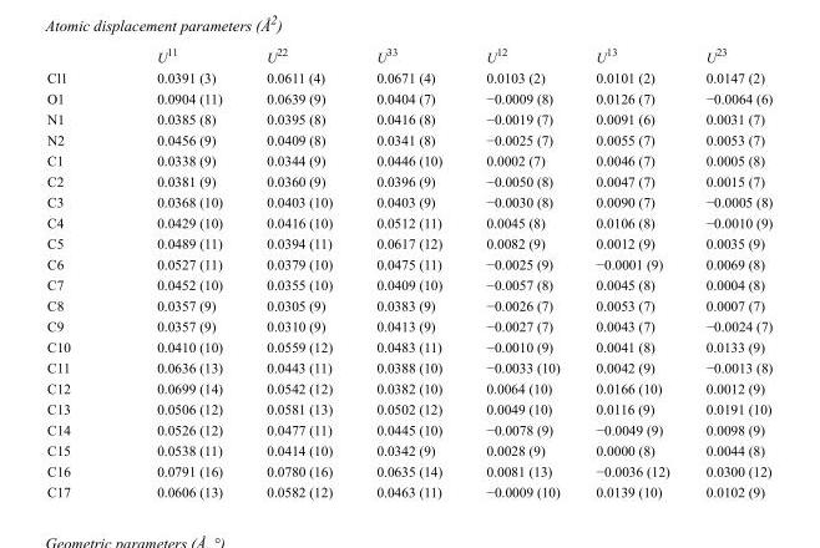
<table><thead><tr><td></td><td>U<sup>11</sup></td><td>U<sup>22</sup></td><td>U<sup>33</sup></td><td>U<sup>12</sup></td><td>U<sup>13</sup></td><td>U<sup>23</sup></td></tr></thead><tbody><tr><td>Cl1</td><td>0.0391 (3)</td><td>0.0611 (4)</td><td>0.0671 (4)</td><td>0.0103 (2)</td><td>0.0101 (2)</td><td>0.0147 (2)</td></tr><tr><td>O1</td><td>0.0904 (11)</td><td>0.0639 (9)</td><td>0.0404 (7)</td><td>−0.0009 (8)</td><td>0.0126 (7)</td><td>−0.0064 (6)</td></tr><tr><td>N1</td><td>0.0385 (8)</td><td>0.0395 (8)</td><td>0.0416 (8)</td><td>−0.0019 (7)</td><td>0.0091 (6)</td><td>0.0031 (7)</td></tr><tr><td>N2</td><td>0.0456 (9)</td><td>0.0409 (8)</td><td>0.0341 (8)</td><td>−0.0025 (7)</td><td>0.0055 (7)</td><td>0.0053 (7)</td></tr><tr><td>C1</td><td>0.0338 (9)</td><td>0.0344 (9)</td><td>0.0446 (10)</td><td>0.0002 (7)</td><td>0.0046 (7)</td><td>0.0005 (8)</td></tr><tr><td>C2</td><td>0.0381 (9)</td><td>0.0360 (9)</td><td>0.0396 (9)</td><td>−0.0050 (8)</td><td>0.0047 (7)</td><td>0.0015 (7)</td></tr><tr><td>C3</td><td>0.0368 (10)</td><td>0.0403 (10)</td><td>0.0403 (9)</td><td>−0.0030 (8)</td><td>0.0090 (7)</td><td>−0.0005 (8)</td></tr><tr><td>C4</td><td>0.0429 (10)</td><td>0.0416 (10)</td><td>0.0512 (11)</td><td>0.0045 (8)</td><td>0.0106 (8)</td><td>−0.0010 (9)</td></tr><tr><td>C5</td><td>0.0489 (11)</td><td>0.0394 (11)</td><td>0.0617 (12)</td><td>0.0082 (9)</td><td>0.0012 (9)</td><td>0.0035 (9)</td></tr><tr><td>C6</td><td>0.0527 (11)</td><td>0.0379 (10)</td><td>0.0475 (11)</td><td>−0.0025 (9)</td><td>−0.0001 (9)</td><td>0.0069 (8)</td></tr><tr><td>C7</td><td>0.0452 (10)</td><td>0.0355 (10)</td><td>0.0409 (10)</td><td>−0.0057 (8)</td><td>0.0045 (8)</td><td>0.0004 (8)</td></tr><tr><td>C8</td><td>0.0357 (9)</td><td>0.0305 (9)</td><td>0.0383 (9)</td><td>−0.0026 (7)</td><td>0.0053 (7)</td><td>0.0007 (7)</td></tr><tr><td>C9</td><td>0.0357 (9)</td><td>0.0310 (9)</td><td>0.0413 (9)</td><td>−0.0027 (7)</td><td>0.0043 (7)</td><td>−0.0024 (7)</td></tr><tr><td>C10</td><td>0.0410 (10)</td><td>0.0559 (12)</td><td>0.0483 (11)</td><td>−0.0010 (9)</td><td>0.0041 (8)</td><td>0.0133 (9)</td></tr><tr><td>C11</td><td>0.0636 (13)</td><td>0.0443 (11)</td><td>0.0388 (10)</td><td>−0.0033 (10)</td><td>0.0042 (9)</td><td>−0.0013 (8)</td></tr><tr><td>C12</td><td>0.0699 (14)</td><td>0.0542 (12)</td><td>0.0382 (10)</td><td>0.0064 (10)</td><td>0.0166 (10)</td><td>0.0012 (9)</td></tr><tr><td>C13</td><td>0.0506 (12)</td><td>0.0581 (13)</td><td>0.0502 (12)</td><td>0.0049 (10)</td><td>0.0116 (9)</td><td>0.0191 (10)</td></tr><tr><td>C14</td><td>0.0526 (12)</td><td>0.0477 (11)</td><td>0.0445 (10)</td><td>−0.0078 (9)</td><td>−0.0049 (9)</td><td>0.0098 (9)</td></tr><tr><td>C15</td><td>0.0538 (11)</td><td>0.0414 (10)</td><td>0.0342 (9)</td><td>0.0028 (9)</td><td>0.0000 (8)</td><td>0.0044 (8)</td></tr><tr><td>C16</td><td>0.0791 (16)</td><td>0.0780 (16)</td><td>0.0635 (14)</td><td>0.0081 (13)</td><td>−0.0036 (12)</td><td>0.0300 (12)</td></tr><tr><td>C17</td><td>0.0606 (13)</td><td>0.0582 (12)</td><td>0.0463 (11)</td><td>−0.0009 (10)</td><td>0.0139 (10)</td><td>0.0102 (9)</td></tr></tbody></table>